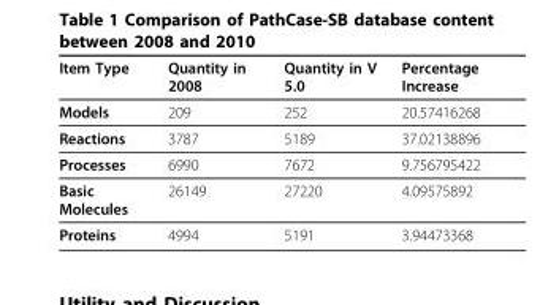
<table><thead><tr><td>Item Type</td><td>Quantity in 2008</td><td>Quantity in V 5.0</td><td>Percentage Increase</td></tr></thead><tbody><tr><td>Models</td><td>209</td><td>252</td><td>20.57416268</td></tr><tr><td>Reactions</td><td>3787</td><td>5189</td><td>37.02138896</td></tr><tr><td>Processes</td><td>6990</td><td>7672</td><td>9.756795422</td></tr><tr><td>Basic Molecules</td><td>26149</td><td>27220</td><td>4.09575892</td></tr><tr><td>Proteins</td><td>4994</td><td>5191</td><td>3.94473368</td></tr></tbody></table>